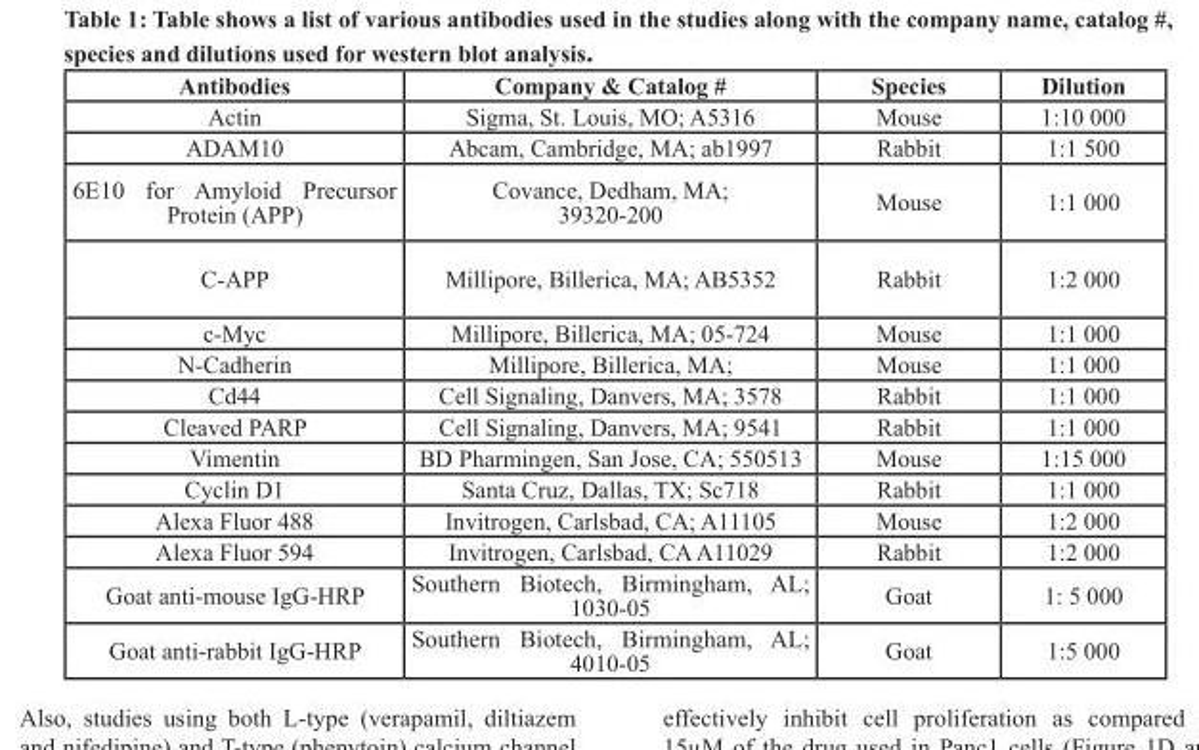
<table><thead><tr><td>Antibodies</td><td>Company &amp; Catalog #</td><td>Species</td><td>Dilution</td></tr></thead><tbody><tr><td>Actin</td><td>Sigma, St. Louis, MO; A5316</td><td>Mouse</td><td>1:10 000</td></tr><tr><td>ADAM10</td><td>Abcam, Cambridge, MA; ab1997</td><td>Rabbit</td><td>1:1 500</td></tr><tr><td>6E10 for Amyloid Precursor Protein (APP)</td><td>Covance, Dedham, MA; 39320-200</td><td>Mouse</td><td>1:1 000</td></tr><tr><td>C-APP</td><td>Millipore, Billerica, MA; AB5352</td><td>Rabbit</td><td>1:2 000</td></tr><tr><td>c-Myc</td><td>Millipore, Billerica, MA; 05-724</td><td>Mouse</td><td>1:1 000</td></tr><tr><td>N-Cadherin</td><td>Millipore, Billerica, MA;</td><td>Mouse</td><td>1:1 000</td></tr><tr><td>Cd44</td><td>Cell Signaling, Danvers, MA; 3578</td><td>Rabbit</td><td>1:1 000</td></tr><tr><td>Cleaved PARP</td><td>Cell Signaling, Danvers, MA; 9541</td><td>Rabbit</td><td>1:1 000</td></tr><tr><td>Vimentin</td><td>BD Pharmingen, San Jose, CA; 550513</td><td>Mouse</td><td>1:15 000</td></tr><tr><td>Cyclin D1</td><td>Santa Cruz, Dallas, TX; Sc718</td><td>Rabbit</td><td>1:1 000</td></tr><tr><td>Alexa Fluor 488</td><td>Invitrogen, Carlsbad, CA; A11105</td><td>Mouse</td><td>1:2 000</td></tr><tr><td>Alexa Fluor 594</td><td>Invitrogen, Carlsbad, CA A11029</td><td>Rabbit</td><td>1:2 000</td></tr><tr><td>Goat anti-mouse IgG-HRP</td><td>Southern Biotech, Birmingham, AL; 1030-05</td><td>Goat</td><td>1: 5 000</td></tr><tr><td>Goat anti-rabbit IgG-HRP</td><td>Southern Biotech, Birmingham, AL; 4010-05</td><td>Goat</td><td>1:5 000</td></tr></tbody></table>